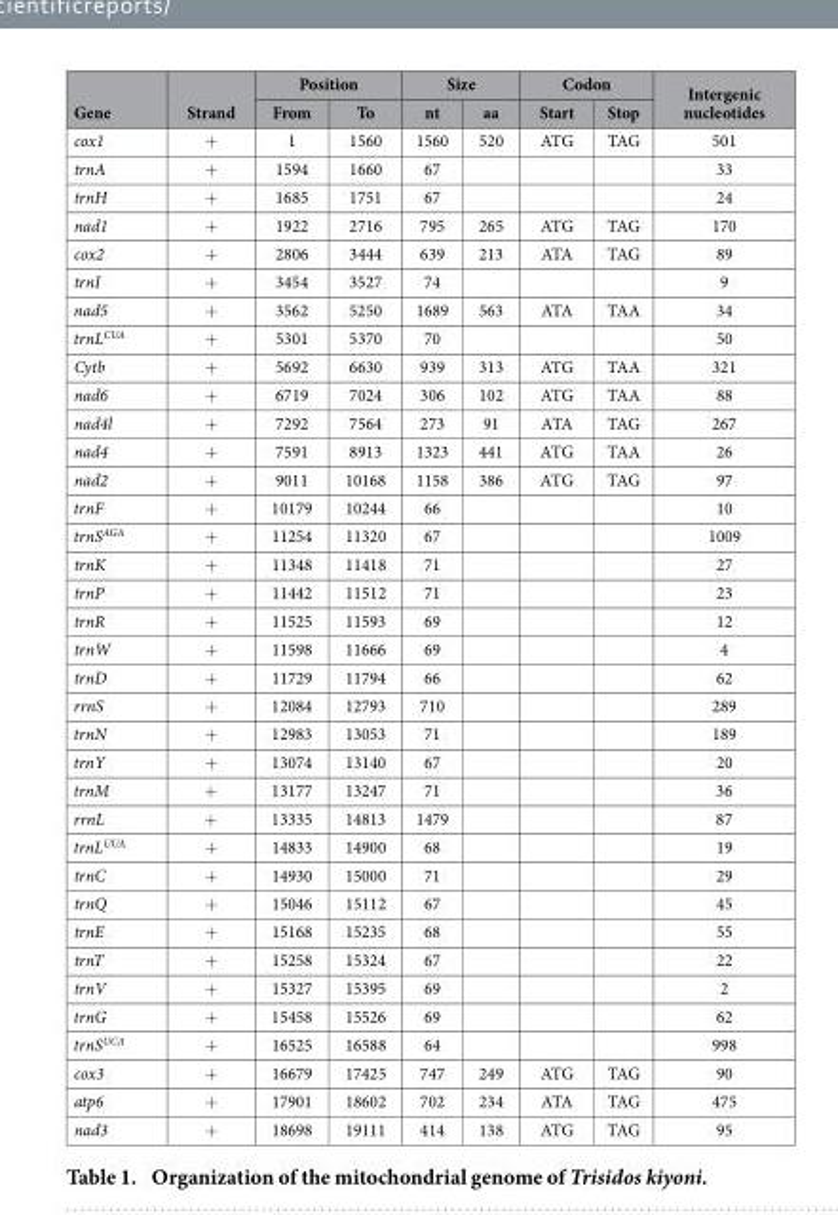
<table><thead><tr><td rowspan="2">Gene</td><td rowspan="2">Strand</td><td colspan="2">Position</td><td colspan="2">Size</td><td colspan="2">Codon</td><td rowspan="2">Intergenic nucleotides</td></tr><tr><td>From</td><td>To</td><td>nt</td><td>aa</td><td>Start</td><td>Stop</td></tr></thead><tbody><tr><td>cox1</td><td>+</td><td>1</td><td>1560</td><td>1560</td><td>520</td><td>ATG</td><td>TAG</td><td>501</td></tr><tr><td>trnA</td><td>+</td><td>1594</td><td>1660</td><td>67</td><td></td><td></td><td></td><td>33</td></tr><tr><td>trnH</td><td>+</td><td>1685</td><td>1751</td><td>67</td><td></td><td></td><td></td><td>24</td></tr><tr><td>nad1</td><td>+</td><td>1922</td><td>2716</td><td>795</td><td>265</td><td>ATG</td><td>TAG</td><td>170</td></tr><tr><td>cox2</td><td>+</td><td>2806</td><td>3444</td><td>639</td><td>213</td><td>ATA</td><td>TAG</td><td>89</td></tr><tr><td>trnI</td><td>+</td><td>3454</td><td>3527</td><td>74</td><td></td><td></td><td></td><td>9</td></tr><tr><td>nad5</td><td>+</td><td>3562</td><td>5250</td><td>1689</td><td>563</td><td>ATA</td><td>TAA</td><td>34</td></tr><tr><td>trnL<sup>CUA</sup></td><td>+</td><td>5301</td><td>5370</td><td>70</td><td></td><td></td><td></td><td>50</td></tr><tr><td>Cytb</td><td>+</td><td>5692</td><td>6630</td><td>939</td><td>313</td><td>ATG</td><td>TAA</td><td>321</td></tr><tr><td>nad6</td><td>+</td><td>6719</td><td>7024</td><td>306</td><td>102</td><td>ATG</td><td>TAA</td><td>88</td></tr><tr><td>nad4l</td><td>+</td><td>7292</td><td>7564</td><td>273</td><td>91</td><td>ATA</td><td>TAG</td><td>267</td></tr><tr><td>nad4</td><td>+</td><td>7591</td><td>8913</td><td>1323</td><td>441</td><td>ATG</td><td>TAA</td><td>26</td></tr><tr><td>nad2</td><td>+</td><td>9011</td><td>10168</td><td>1158</td><td>386</td><td>ATG</td><td>TAG</td><td>97</td></tr><tr><td>trnF</td><td>+</td><td>10179</td><td>10244</td><td>66</td><td></td><td></td><td></td><td>10</td></tr><tr><td>trnS<sup>AGA</sup></td><td>+</td><td>11254</td><td>11320</td><td>67</td><td></td><td></td><td></td><td>1009</td></tr><tr><td>trnK</td><td>+</td><td>11348</td><td>11418</td><td>71</td><td></td><td></td><td></td><td>27</td></tr><tr><td>trnP</td><td>+</td><td>11442</td><td>11512</td><td>71</td><td></td><td></td><td></td><td>23</td></tr><tr><td>trnR</td><td>+</td><td>11525</td><td>11593</td><td>69</td><td></td><td></td><td></td><td>12</td></tr><tr><td>trnW</td><td>+</td><td>11598</td><td>11666</td><td>69</td><td></td><td></td><td></td><td>4</td></tr><tr><td>trnD</td><td>+</td><td>11729</td><td>11794</td><td>66</td><td></td><td></td><td></td><td>62</td></tr><tr><td>rrnS</td><td>+</td><td>12084</td><td>12793</td><td>710</td><td></td><td></td><td></td><td>289</td></tr><tr><td>trnN</td><td>+</td><td>12983</td><td>13053</td><td>71</td><td></td><td></td><td></td><td>189</td></tr><tr><td>trnY</td><td>+</td><td>13074</td><td>13140</td><td>67</td><td></td><td></td><td></td><td>20</td></tr><tr><td>trnM</td><td>+</td><td>13177</td><td>13247</td><td>71</td><td></td><td></td><td></td><td>36</td></tr><tr><td>rrnL</td><td>+</td><td>13335</td><td>14813</td><td>1479</td><td></td><td></td><td></td><td>87</td></tr><tr><td>trnL<sup>UUA</sup></td><td>+</td><td>14833</td><td>14900</td><td>68</td><td></td><td></td><td></td><td>19</td></tr><tr><td>trnC</td><td>+</td><td>14930</td><td>15000</td><td>71</td><td></td><td></td><td></td><td>29</td></tr><tr><td>trnQ</td><td>+</td><td>15046</td><td>15112</td><td>67</td><td></td><td></td><td></td><td>45</td></tr><tr><td>trnE</td><td>+</td><td>15168</td><td>15235</td><td>68</td><td></td><td></td><td></td><td>55</td></tr><tr><td>trnT</td><td>+</td><td>15258</td><td>15324</td><td>67</td><td></td><td></td><td></td><td>22</td></tr><tr><td>trnV</td><td>+</td><td>15327</td><td>15395</td><td>69</td><td></td><td></td><td></td><td>2</td></tr><tr><td>trnG</td><td>+</td><td>15458</td><td>15526</td><td>69</td><td></td><td></td><td></td><td>62</td></tr><tr><td>trnS<sup>UCA</sup></td><td>+</td><td>16525</td><td>16588</td><td>64</td><td></td><td></td><td></td><td>998</td></tr><tr><td>cox3</td><td>+</td><td>16679</td><td>17425</td><td>747</td><td>249</td><td>ATG</td><td>TAG</td><td>90</td></tr><tr><td>atp6</td><td>+</td><td>17901</td><td>18602</td><td>702</td><td>234</td><td>ATA</td><td>TAG</td><td>475</td></tr><tr><td>nad3</td><td>+</td><td>18698</td><td>19111</td><td>414</td><td>138</td><td>ATG</td><td>TAG</td><td>95</td></tr></tbody></table>